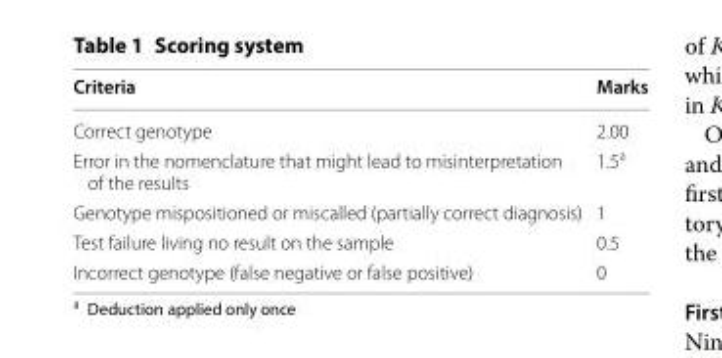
<table><thead><tr><td>Criteria</td><td>Marks</td></tr></thead><tbody><tr><td>Correct genotype</td><td>2.00</td></tr><tr><td>Error in the nomenclature that might lead to misinterpretation of the results</td><td>1.5<sup>a</sup></td></tr><tr><td>Genotype mispositioned or miscalled (partially correct diagnosis)</td><td>1</td></tr><tr><td>Test failure living no result on the sample</td><td>0.5</td></tr><tr><td>Incorrect genotype (false negative or false positive)</td><td>0</td></tr></tbody></table>